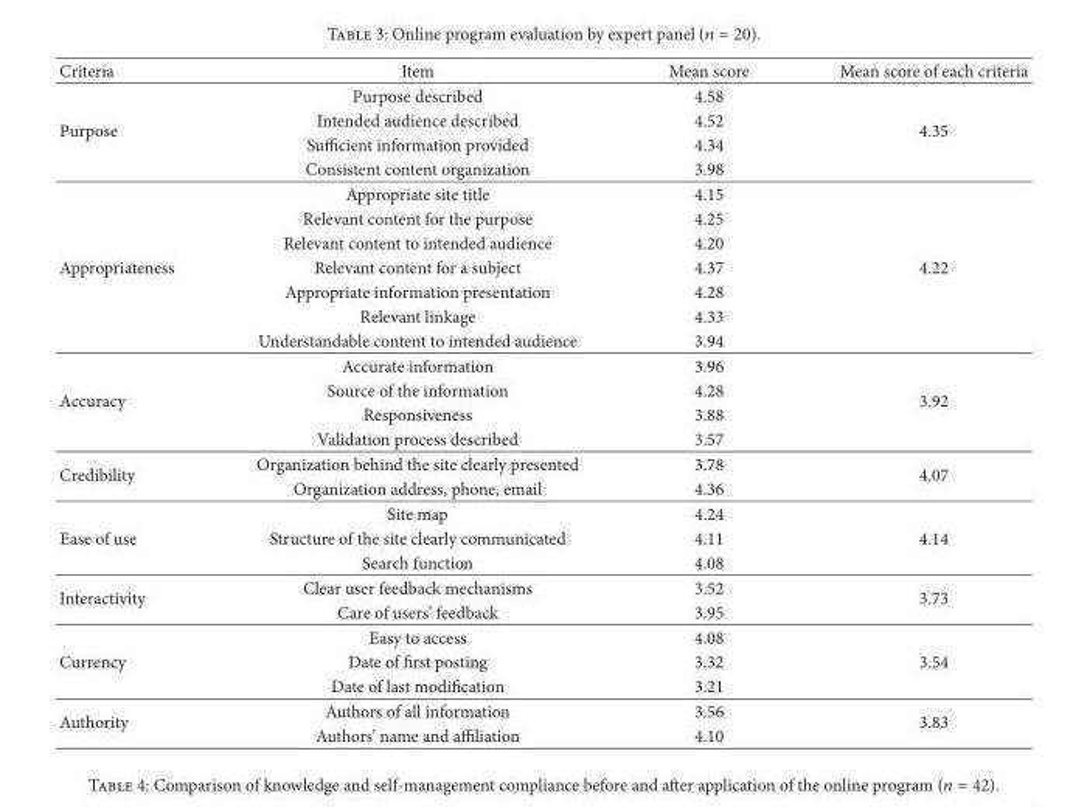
<table><thead><tr><td>Criteria</td><td>Item</td><td>Mean score</td><td>Mean score of each criteria</td></tr></thead><tbody><tr><td></td><td>Purpose described</td><td>4.58</td><td></td></tr><tr><td rowspan="6">Purpose</td><td>Intended audience described</td><td>4.52</td><td rowspan="2">4.35</td></tr><tr><td>Sufficient information provided</td><td>4.34</td></tr><tr><td>Consistent content organization</td><td>3.98</td><td></td></tr><tr><td>Appropriate site title</td><td>4.15</td><td></td></tr><tr><td>Relevant content for the purpose</td><td>4.25</td><td></td></tr><tr><td>Relevant content to intended audience</td><td>4.20</td><td></td></tr><tr><td rowspan="5">Appropriateness</td><td>Relevant content for a subject</td><td>4.37</td><td>4.22</td></tr><tr><td>Appropriate information presentation</td><td>4.28</td><td></td></tr><tr><td>Relevant linkage</td><td>4.33</td><td></td></tr><tr><td>Understandable content to intended audience</td><td>3.94</td><td></td></tr><tr><td>Accurate information</td><td>3.96</td><td></td></tr><tr><td rowspan="3">Accuracy</td><td>Source of the information</td><td>4.28</td><td rowspan="2">3.92</td></tr><tr><td>Responsiveness</td><td>3.88</td></tr><tr><td>Validation process described</td><td>3.57</td><td></td></tr><tr><td rowspan="3">Credibility</td><td>Organization behind the site clearly presented</td><td>3.78</td><td rowspan="2">4.07</td></tr><tr><td>Organization address, phone, email</td><td>4.36</td></tr><tr><td>Site map</td><td>4.24</td><td></td></tr><tr><td rowspan="2">Ease of use</td><td>Structure of the site clearly communicated</td><td>4.11</td><td>4.14</td></tr><tr><td>Search function</td><td>4.08</td><td></td></tr><tr><td rowspan="3">Interactivity</td><td>Clear user feedback mechanisms</td><td>3.52</td><td rowspan="2">3.73</td></tr><tr><td>Care of users’ feedback</td><td>3.95</td></tr><tr><td>Easy to access</td><td>4.08</td><td></td></tr><tr><td rowspan="2">Currency</td><td>Date of �rst posting</td><td>3.32</td><td>3.54</td></tr><tr><td>Date of last modi�cation</td><td>3.21</td><td></td></tr><tr><td rowspan="2">Authority</td><td>Authors of all information</td><td>3.56</td><td rowspan="2">3.83</td></tr><tr><td>Authors’ name and affiliation</td><td>4.10</td></tr></tbody></table>